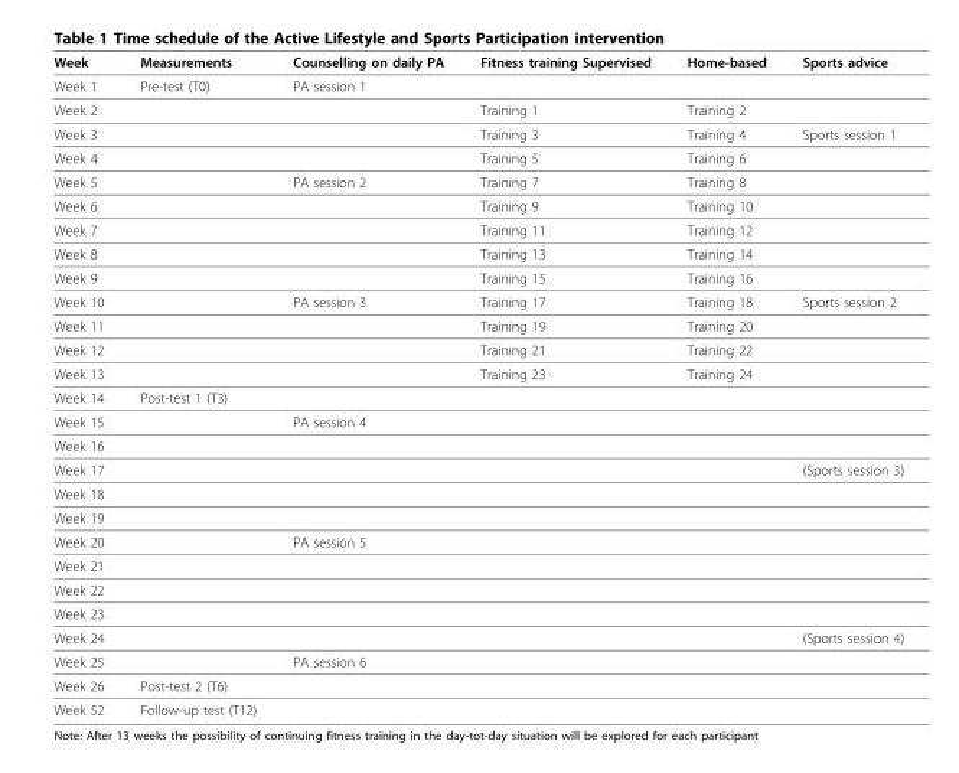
<table><thead><tr><td>Week</td><td>Measurements</td><td>Counselling on daily PA</td><td>Fitness training Supervised</td><td>Home-based</td><td>Sports advice</td></tr></thead><tbody><tr><td>Week 1</td><td>Pre-test (T0)</td><td>PA session 1</td><td></td><td></td><td></td></tr><tr><td>Week 2</td><td></td><td></td><td>Training 1</td><td>Training 2</td><td></td></tr><tr><td>Week 3</td><td></td><td></td><td>Training 3</td><td>Training 4</td><td>Sports session 1</td></tr><tr><td>Week 4</td><td></td><td></td><td>Training 5</td><td>Training 6</td><td></td></tr><tr><td>Week 5</td><td></td><td>PA session 2</td><td>Training 7</td><td>Training 8</td><td></td></tr><tr><td>Week 6</td><td></td><td></td><td>Training 9</td><td>Training 10</td><td></td></tr><tr><td>Week 7</td><td></td><td></td><td>Training 11</td><td>Training 12</td><td></td></tr><tr><td>Week 8</td><td></td><td></td><td>Training 13</td><td>Training 14</td><td></td></tr><tr><td>Week 9</td><td></td><td></td><td>Training 15</td><td>Training 16</td><td></td></tr><tr><td>Week 10</td><td></td><td>PA session 3</td><td>Training 17</td><td>Training 18</td><td>Sports session 2</td></tr><tr><td>Week 11</td><td></td><td></td><td>Training 19</td><td>Training 20</td><td></td></tr><tr><td>Week 12</td><td></td><td></td><td>Training 21</td><td>Training 22</td><td></td></tr><tr><td>Week 13</td><td></td><td></td><td>Training 23</td><td>Training 24</td><td></td></tr><tr><td>Week 14</td><td>Post-test 1 (T3)</td><td></td><td></td><td></td><td></td></tr><tr><td>Week 15</td><td></td><td>PA session 4</td><td></td><td></td><td></td></tr><tr><td colspan="6">Week 16</td></tr><tr><td>Week 17</td><td></td><td></td><td></td><td></td><td>(Sports session 3)</td></tr><tr><td colspan="6">Week 18</td></tr><tr><td colspan="6">Week 19</td></tr><tr><td>Week 20</td><td></td><td>PA session 5</td><td></td><td></td><td></td></tr><tr><td colspan="6">Week 21</td></tr><tr><td colspan="6">Week 22</td></tr><tr><td colspan="6">Week 23</td></tr><tr><td>Week 24</td><td></td><td></td><td></td><td></td><td>(Sports session 4)</td></tr><tr><td>Week 25</td><td></td><td>PA session 6</td><td></td><td></td><td></td></tr><tr><td>Week 26</td><td>Post-test 2 (T6)</td><td></td><td></td><td></td><td></td></tr><tr><td>Week 52</td><td>Follow-up test (T12)</td><td></td><td></td><td></td><td></td></tr></tbody></table>